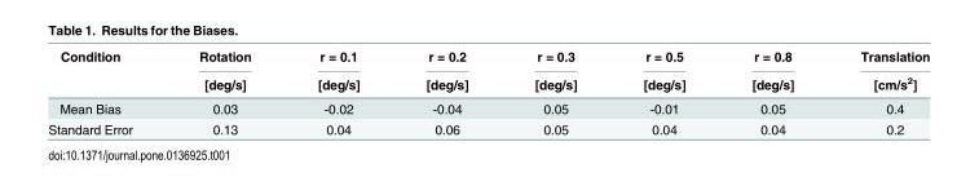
<table><thead><tr><td rowspan="2">Condition</td><td rowspan="2">Rotation [deg/s]</td><td rowspan="2">r = 0.1 [deg/s]</td><td rowspan="2">r = 0.2 [deg/s]</td><td rowspan="2">r = 0.3 [deg/s]</td><td rowspan="2">r = 0.5 [deg/s]</td><td rowspan="2">r = 0.8 [deg/s]</td><td rowspan="2">Translation [cm/s<sup>2</sup>]</td></tr><tr></tr></thead><tbody><tr><td>Mean Bias</td><td>0.03</td><td>-0.02</td><td>-0.04</td><td>0.05</td><td>-0.01</td><td>0.05</td><td>0.4</td></tr><tr><td>Standard Error</td><td>0.13</td><td>0.04</td><td>0.06</td><td>0.05</td><td>0.04</td><td>0.04</td><td>0.2</td></tr></tbody></table>